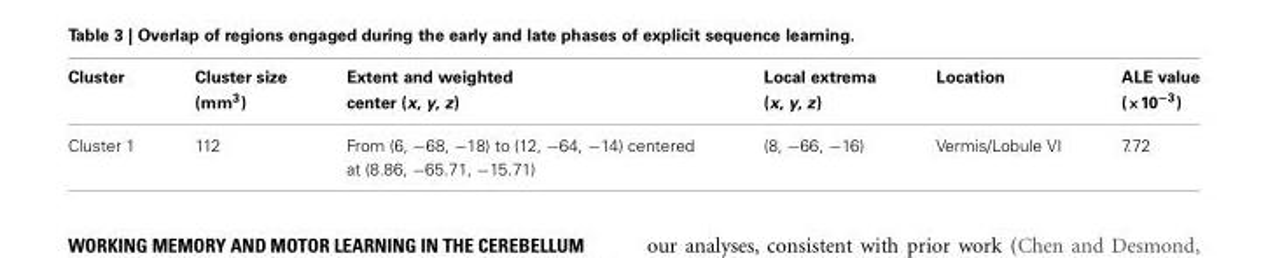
<table><thead><tr><td>Cluster</td><td>Cluster size (mm<sup>3</sup>)</td><td>Extent and weighted center (x, y, z)</td><td>Local extrema (x, y, z)</td><td>Location</td><td>ALE value (×10<sup>−3</sup>)</td></tr></thead><tbody><tr><td>Cluster 1</td><td>112</td><td>From (6, −68, −18) to (12, −64, −14) centered at (8.86, −65.71, −15.71)</td><td>(8, −66, −16)</td><td>Vermis/Lobule VI</td><td>7.72</td></tr></tbody></table>